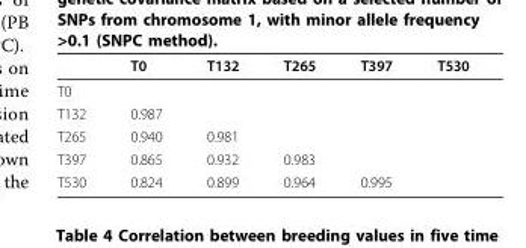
<table><thead><tr><td></td><td>T0</td><td>T132</td><td>T265</td><td>T397</td><td>T530</td></tr></thead><tbody><tr><td colspan="6">T0</td></tr><tr><td>T132</td><td>0.987</td><td></td><td></td><td></td><td></td></tr><tr><td>T265</td><td>0.940</td><td>0.981</td><td></td><td></td><td></td></tr><tr><td>T397</td><td>0.865</td><td>0.932</td><td>0.983</td><td></td><td></td></tr><tr><td>T530</td><td>0.824</td><td>0.899</td><td>0.964</td><td>0.995</td><td></td></tr></tbody></table>